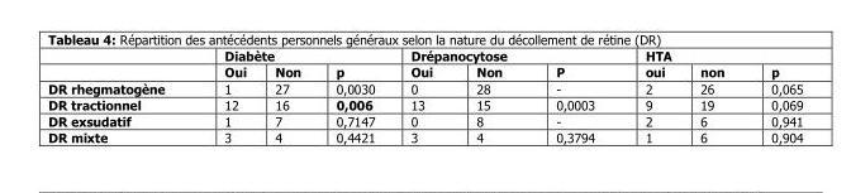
<table><thead><tr><td rowspan="2"></td><td colspan="3">Diabète</td><td colspan="3">Drépanocytose</td><td colspan="3">HTA</td></tr><tr><td>Oui</td><td>Non</td><td>p</td><td>Oui</td><td>Non</td><td>P</td><td>oui</td><td>non</td><td>p</td></tr></thead><tbody><tr><td>DR rhegmatogène</td><td>1</td><td>27</td><td>0,0030</td><td>0</td><td>28</td><td>-</td><td>2</td><td>26</td><td>0,065</td></tr><tr><td>DR tractionnel</td><td>12</td><td>16</td><td>0,006</td><td>13</td><td>15</td><td>0,0003</td><td>9</td><td>19</td><td>0,069</td></tr><tr><td>DR exsudatif</td><td>1</td><td>7</td><td>0,7147</td><td>0</td><td>8</td><td>-</td><td>2</td><td>6</td><td>0,941</td></tr><tr><td>DR mixte</td><td>3</td><td>4</td><td>0,4421</td><td>3</td><td>4</td><td>0,3794</td><td>1</td><td>6</td><td>0,904</td></tr></tbody></table>